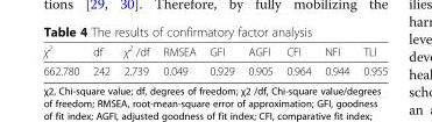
<table><thead><tr><td>χ<sup>2</sup></td><td>df</td><td>χ<sup>2</sup> /df</td><td>RMSEA</td><td>GFI</td><td>AGFI</td><td>CFI</td><td>NFI</td><td>TLI</td></tr></thead><tbody><tr><td>662.780</td><td>242</td><td>2.739</td><td>0.049</td><td>0.929</td><td>0.905</td><td>0.964</td><td>0.944</td><td>0.955</td></tr></tbody></table>